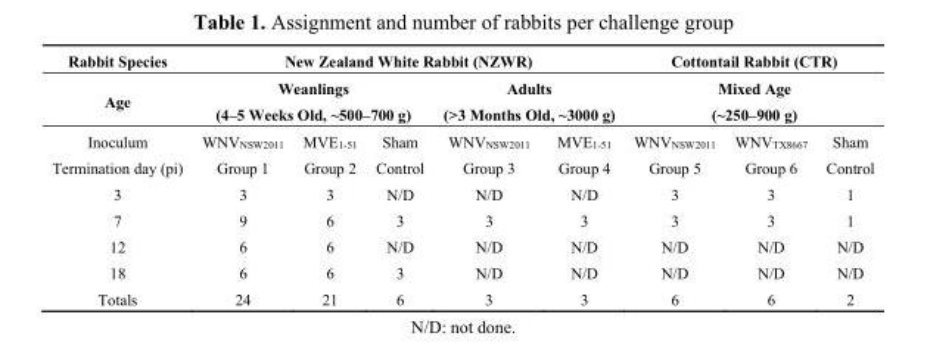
<table><thead><tr><td rowspan="3">Rabbit Species Age Inoculum</td><td colspan="5">New Zealand White Rabbit (NZWR)</td><td rowspan="2" colspan="3">Cottontail Rabbit (CTR) Mixed Age (~250–900 g)</td></tr><tr><td colspan="3">Weanlings (4–5 Weeks Old, ~500–700 g)</td><td colspan="2">Adults (&gt;3 Months Old, ~3000 g)</td></tr><tr><td>WNV<sub>NSW2011</sub></td><td>MVE<sub>1-51</sub></td><td>Sham</td><td>WNV<sub>NSW2011</sub></td><td>MVE<sub>1-51</sub></td><td>WNV<sub>NSW2011</sub></td><td>WNV<sub>TX8667</sub></td><td>Sham</td></tr></thead><tbody><tr><td>Termination day (pi)</td><td>Group 1</td><td>Group 2</td><td>Control</td><td>Group 3</td><td>Group 4</td><td>Group 5</td><td>Group 6</td><td>Control</td></tr><tr><td>3</td><td>3</td><td>3</td><td>N/D</td><td>N/D</td><td>N/D</td><td>3</td><td>3</td><td>1</td></tr><tr><td>7</td><td>9</td><td>6</td><td>3</td><td>3</td><td>3</td><td>3</td><td>3</td><td>1</td></tr><tr><td>12</td><td>6</td><td>6</td><td>N/D</td><td>N/D</td><td>N/D</td><td>N/D</td><td>N/D</td><td>N/D</td></tr><tr><td>18</td><td>6</td><td>6</td><td>3</td><td>N/D</td><td>N/D</td><td>N/D</td><td>N/D</td><td>N/D</td></tr><tr><td>Totals</td><td>24</td><td>21</td><td>6</td><td>3</td><td>3</td><td>6</td><td>6</td><td>2</td></tr></tbody></table>